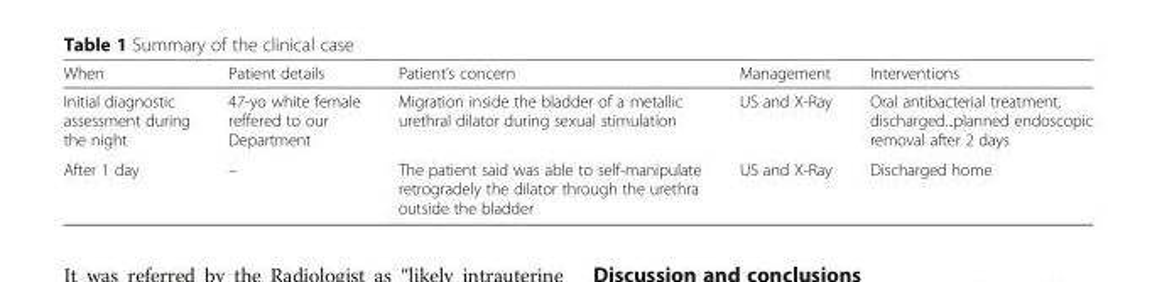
<table><thead><tr><td>When</td><td>Patient details</td><td>Patient’s concern</td><td>Management</td><td>Interventions</td></tr></thead><tbody><tr><td>Initial diagnostic assessment during the night</td><td>47-yo white female reffered to our Department</td><td>Migration inside the bladder of a metallic urethral dilator during sexual stimulation</td><td>US and X-Ray</td><td>Oral antibacterial treatment, discharged...planned endoscopic removal after 2 days</td></tr><tr><td>After 1 day</td><td>–</td><td>The patient said was able to self-manipulate retrogradely the dilator through the urethra outside the bladder</td><td>US and X-Ray</td><td>Discharged home</td></tr></tbody></table>